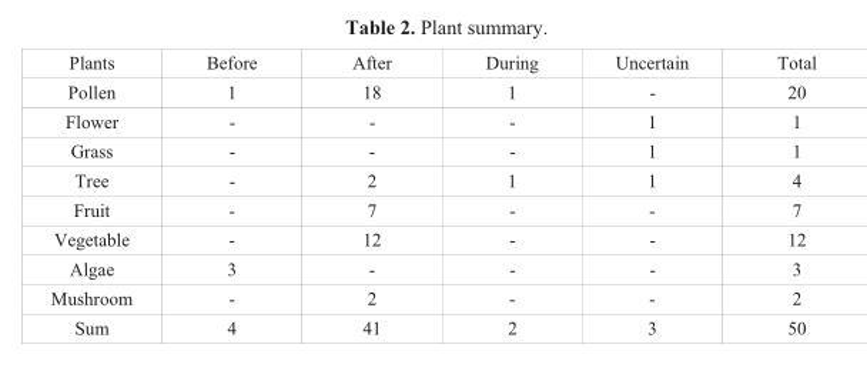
<table><tbody><tr><td>Plants</td><td>Before</td><td>After</td><td>During</td><td>Uncertain</td><td>Total</td></tr><tr><td>Pollen</td><td>1</td><td>18</td><td>1</td><td>-</td><td>20</td></tr><tr><td>Flower</td><td>-</td><td>-</td><td>-</td><td>1</td><td>1</td></tr><tr><td>Grass</td><td>-</td><td>-</td><td>-</td><td>1</td><td>1</td></tr><tr><td>Tree</td><td>-</td><td>2</td><td>1</td><td>1</td><td>4</td></tr><tr><td>Fruit</td><td>-</td><td>7</td><td>-</td><td>-</td><td>7</td></tr><tr><td>Vegetable</td><td>-</td><td>12</td><td>-</td><td>-</td><td>12</td></tr><tr><td>Algae</td><td>3</td><td>-</td><td>-</td><td>-</td><td>3</td></tr><tr><td>Mushroom</td><td>-</td><td>2</td><td>-</td><td>-</td><td>2</td></tr><tr><td>Sum</td><td>4</td><td>41</td><td>2</td><td>3</td><td>50</td></tr></tbody></table>